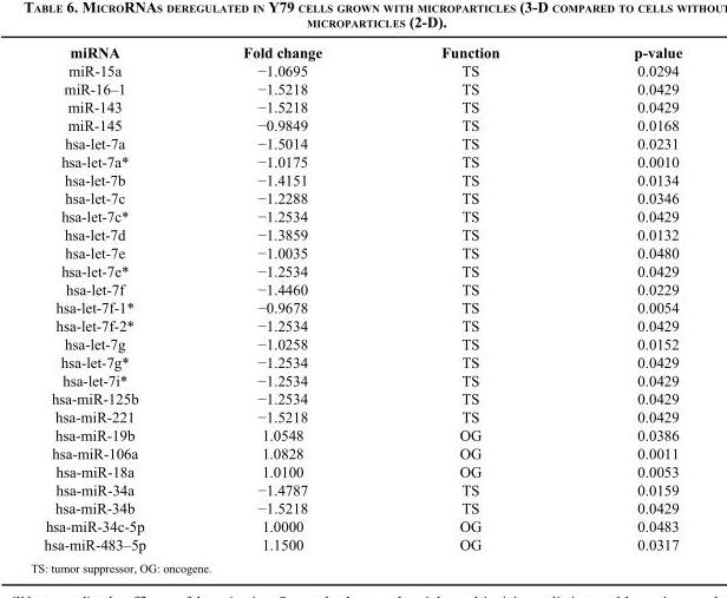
<table><thead><tr><td>miRNA</td><td>Fold change</td><td>Function</td><td>p-value</td></tr></thead><tbody><tr><td>miR-15a</td><td>−1.0695</td><td>TS</td><td>0.0294</td></tr><tr><td>miR-16–1</td><td>−1.5218</td><td>TS</td><td>0.0429</td></tr><tr><td>miR-143</td><td>−1.5218</td><td>TS</td><td>0.0429</td></tr><tr><td>miR-145</td><td>−0.9849</td><td>TS</td><td>0.0168</td></tr><tr><td>hsa-let-7a</td><td>−1.5014</td><td>TS</td><td>0.0231</td></tr><tr><td>hsa-let-7a*</td><td>−1.0175</td><td>TS</td><td>0.0010</td></tr><tr><td>hsa-let-7b</td><td>−1.4151</td><td>TS</td><td>0.0134</td></tr><tr><td>hsa-let-7c</td><td>−1.2288</td><td>TS</td><td>0.0346</td></tr><tr><td>hsa-let-7c*</td><td>−1.2534</td><td>TS</td><td>0.0429</td></tr><tr><td>hsa-let-7d</td><td>−1.3859</td><td>TS</td><td>0.0132</td></tr><tr><td>hsa-let-7e</td><td>−1.0035</td><td>TS</td><td>0.0480</td></tr><tr><td>hsa-let-7e*</td><td>−1.2534</td><td>TS</td><td>0.0429</td></tr><tr><td>hsa-let-7f</td><td>−1.4460</td><td>TS</td><td>0.0229</td></tr><tr><td>hsa-let-7f-1*</td><td>−0.9678</td><td>TS</td><td>0.0054</td></tr><tr><td>hsa-let-7f-2*</td><td>−1.2534</td><td>TS</td><td>0.0429</td></tr><tr><td>hsa-let-7g</td><td>−1.0258</td><td>TS</td><td>0.0152</td></tr><tr><td>hsa-let-7g*</td><td>−1.2534</td><td>TS</td><td>0.0429</td></tr><tr><td>hsa-let-7i*</td><td>−1.2534</td><td>TS</td><td>0.0429</td></tr><tr><td>hsa-miR-125b</td><td>−1.2534</td><td>TS</td><td>0.0429</td></tr><tr><td>hsa-miR-221</td><td>−1.5218</td><td>TS</td><td>0.0429</td></tr><tr><td>hsa-miR-19b</td><td>1.0548</td><td>OG</td><td>0.0386</td></tr><tr><td>hsa-miR-106a</td><td>1.0828</td><td>OG</td><td>0.0011</td></tr><tr><td>hsa-miR-18a</td><td>1.0100</td><td>OG</td><td>0.0053</td></tr><tr><td>hsa-miR-34a</td><td>−1.4787</td><td>TS</td><td>0.0159</td></tr><tr><td>hsa-miR-34b</td><td>−1.5218</td><td>TS</td><td>0.0429</td></tr><tr><td>hsa-miR-34c-5p</td><td>1.0000</td><td>OG</td><td>0.0483</td></tr><tr><td>hsa-miR-483–5p</td><td>1.1500</td><td>OG</td><td>0.0317</td></tr></tbody></table>